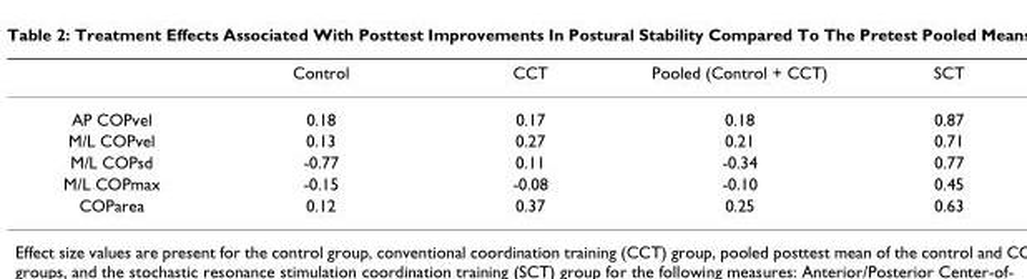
<table><thead><tr><td></td><td>Control</td><td>CCT</td><td>Pooled (Control + CCT)</td><td>SCT</td></tr></thead><tbody><tr><td>AP COPvel</td><td>0.18</td><td>0.17</td><td>0.18</td><td>0.87</td></tr><tr><td>M/L COPvel</td><td>0.13</td><td>0.27</td><td>0.21</td><td>0.71</td></tr><tr><td>M/L COPsd</td><td>-0.77</td><td>0.11</td><td>-0.34</td><td>0.77</td></tr><tr><td>M/L COPmax</td><td>-0.15</td><td>-0.08</td><td>-0.10</td><td>0.45</td></tr><tr><td>COParea</td><td>0.12</td><td>0.37</td><td>0.25</td><td>0.63</td></tr></tbody></table>